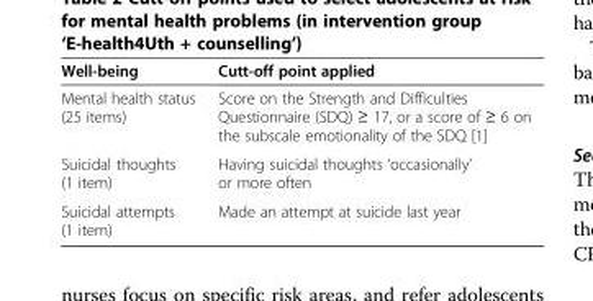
<table><thead><tr><td>Well-being</td><td>Cutt-off point applied</td></tr></thead><tbody><tr><td>Mental health status (25 items)</td><td>Score on the Strength and Difficulties Questionnaire (SDQ) ≥ 17, or a score of ≥ 6 on the subscale emotionality of the SDQ [1]</td></tr><tr><td>Suicidal thoughts (1 item)</td><td>Having suicidal thoughts ‘occasionally’ or more often</td></tr><tr><td>Suicidal attempts (1 item)</td><td>Made an attempt at suicide last year</td></tr></tbody></table>